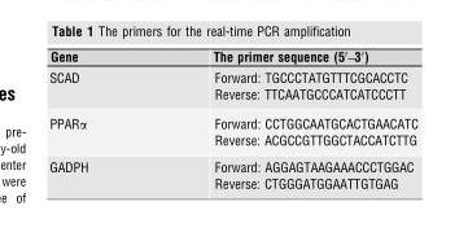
<table><thead><tr><td>Gene</td><td>The primer sequence (5′–3′)</td></tr></thead><tbody><tr><td>SCAD</td><td>Forward: TGCCCTATGTTTCGCACCTC Reverse: TTCAATGCCCATCATCCCTT</td></tr><tr><td>PPARα</td><td>Forward: CCTGGCAATGCACTGAACATC Reverse: ACGCCGTTGGCTACCATCTTG</td></tr><tr><td>GADPH</td><td>Forward: AGGAGTAAGAAACCCTGGAC Reverse: CTGGGATGGAATTGTGAG</td></tr></tbody></table>